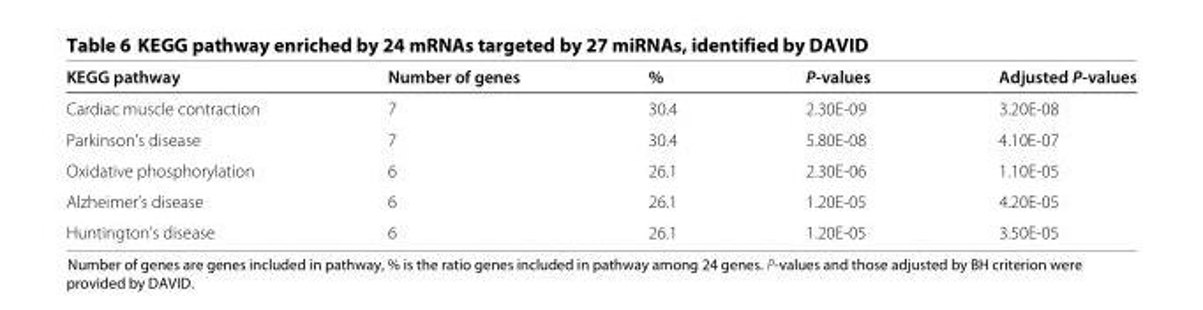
<table><thead><tr><td>KEGG pathway</td><td>Number of genes</td><td>%</td><td>P-values</td><td>Adjusted P-values</td></tr></thead><tbody><tr><td>Cardiac muscle contraction</td><td>7</td><td>30.4</td><td>2.30E-09</td><td>3.20E-08</td></tr><tr><td>Parkinson’s disease</td><td>7</td><td>30.4</td><td>5.80E-08</td><td>4.10E-07</td></tr><tr><td>Oxidative phosphorylation</td><td>6</td><td>26.1</td><td>2.30E-06</td><td>1.10E-05</td></tr><tr><td>Alzheimer’s disease</td><td>6</td><td>26.1</td><td>1.20E-05</td><td>4.20E-05</td></tr><tr><td>Huntington’s disease</td><td>6</td><td>26.1</td><td>1.20E-05</td><td>3.50E-05</td></tr></tbody></table>